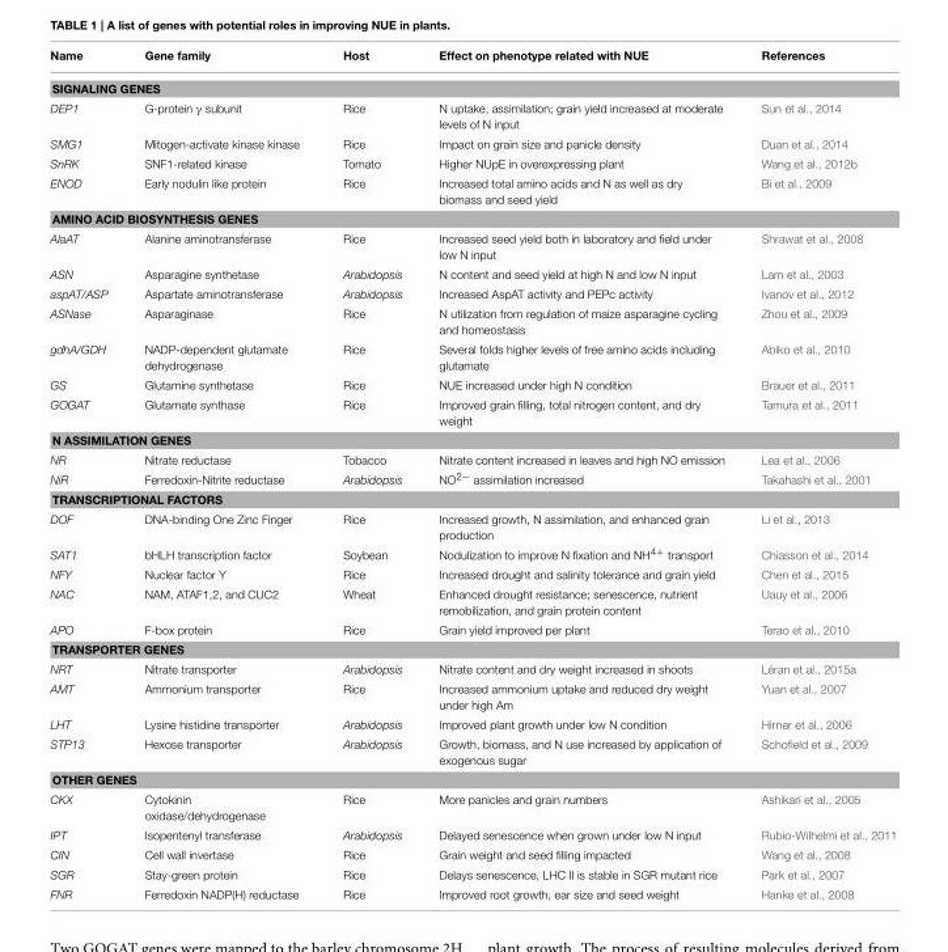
<table><thead><tr><td>Name</td><td>Gene family</td><td>Host</td><td>Effect on phenotype related with NUE</td><td>References</td></tr></thead><tbody><tr><td colspan="5">SIGNALING GENES</td></tr><tr><td>DEP1</td><td>G-protein γ subunit</td><td>Rice</td><td>N uptake, assimilation; grain yield increased at moderate levels of N input</td><td>Sun et al., 2014</td></tr><tr><td>SMG1</td><td>Mitogen-activate kinase kinase</td><td>Rice</td><td>Impact on grain size and panicle density</td><td>Duan et al., 2014</td></tr><tr><td>SnRK</td><td>SNF1-related kinase</td><td>Tomato</td><td>Higher NUpE in overexpressing plant</td><td>Wang et al., 2012b</td></tr><tr><td>ENOD</td><td>Early nodulin like protein</td><td>Rice</td><td>Increased total amino acids and N as well as dry biomass and seed yield</td><td>Bi et al., 2009</td></tr><tr><td colspan="5">AMINO ACID BIOSYNTHESIS GENES</td></tr><tr><td>AlaAT</td><td>Alanine aminotransferase</td><td>Rice</td><td>Increased seed yield both in laboratory and field under low N input</td><td>Shrawat et al., 2008</td></tr><tr><td>ASN</td><td>Asparagine synthetase</td><td>Arabidopsis</td><td>N content and seed yield at high N and low N input</td><td>Lam et al., 2003</td></tr><tr><td>aspAT/ASP</td><td>Aspartate aminotransferase</td><td>Arabidopsis</td><td>Increased AspAT activity and PEPc activity</td><td>Ivanov et al., 2012</td></tr><tr><td>ASNase</td><td>Asparaginase</td><td>Rice</td><td>N utilization from regulation of maize asparagine cycling and homeostasis</td><td>Zhou et al., 2009</td></tr><tr><td>gdhA/GDH</td><td>NADP-dependent glutamate dehydrogenase</td><td>Rice</td><td>Several folds higher levels of free amino acids including glutamate</td><td>Abiko et al., 2010</td></tr><tr><td>GS</td><td>Glutamine synthetase</td><td>Rice</td><td>NUE increased under high N condition</td><td>Brauer et al., 2011</td></tr><tr><td>GOGAT</td><td>Glutamate synthase</td><td>Rice</td><td>Improved grain filling, total nitrogen content, and dry weight</td><td>Tamura et al., 2011</td></tr><tr><td colspan="5">N ASSIMILATION GENES</td></tr><tr><td>NR</td><td>Nitrate reductase</td><td>Tobacco</td><td>Nitrate content increased in leaves and high NO emission</td><td>Lea et al., 2006</td></tr><tr><td>NiR</td><td>Ferredoxin-Nitrite reductase</td><td>Arabidopsis</td><td>NO<sup>2−</sup> assimilation increased</td><td>Takahashi et al., 2001</td></tr><tr><td colspan="5">TRANSCRIPTIONAL FACTORS</td></tr><tr><td>DOF</td><td>DNA-binding One Zinc Finger</td><td>Rice</td><td>Increased growth, N assimilation, and enhanced grain production</td><td>Li et al., 2013</td></tr><tr><td>SAT1</td><td>bHLH transcription factor</td><td>Soybean</td><td>Nodulization to improve N fixation and NH<sup>4+</sup> transport</td><td>Chiasson et al., 2014</td></tr><tr><td>NFY</td><td>Nuclear factor Y</td><td>Rice</td><td>Increased drought and salinity tolerance and grain yield</td><td>Chen et al., 2015</td></tr><tr><td>NAC</td><td>NAM, ATAF1,2, and CUC2</td><td>Wheat</td><td>Enhanced drought resistance; senescence, nutrient remobilization, and grain protein content</td><td>Uauy et al., 2006</td></tr><tr><td>APO</td><td>F-box protein</td><td>Rice</td><td>Grain yield improved per plant</td><td>Terao et al., 2010</td></tr><tr><td colspan="5">TRANSPORTER GENES</td></tr><tr><td>NRT</td><td>Nitrate transporter</td><td>Arabidopsis</td><td>Nitrate content and dry weight increased in shoots</td><td>Léran et al., 2015a</td></tr><tr><td>AMT</td><td>Ammonium transporter</td><td>Rice</td><td>Increased ammonium uptake and reduced dry weight under high Am</td><td>Yuan et al., 2007</td></tr><tr><td>LHT</td><td>Lysine histidine transporter</td><td>Arabidopsis</td><td>Improved plant growth under low N condition</td><td>Hirner et al., 2006</td></tr><tr><td>STP13</td><td>Hexose transporter</td><td>Arabidopsis</td><td>Growth, biomass, and N use increased by application of exogenous sugar</td><td>Schofield et al., 2009</td></tr><tr><td colspan="5">OTHER GENES</td></tr><tr><td>CKX</td><td>Cytokinin oxidase/dehydrogenase</td><td>Rice</td><td>More panicles and grain numbers</td><td>Ashikari et al., 2005</td></tr><tr><td>IPT</td><td>Isopentenyl transferase</td><td>Arabidopsis</td><td>Delayed senescence when grown under low N input</td><td>Rubio-Wilhelmi et al., 2011</td></tr><tr><td>CIN</td><td>Cell wall invertase</td><td>Rice</td><td>Grain weight and seed filling impacted</td><td>Wang et al., 2008</td></tr><tr><td>SGR</td><td>Stay-green protein</td><td>Rice</td><td>Delays senescence, LHC II is stable in SGR mutant rice</td><td>Park et al., 2007</td></tr><tr><td>FNR</td><td>Ferredoxin NADP(H) reductase</td><td>Rice</td><td>Improved root growth, ear size and seed weight</td><td>Hanke et al., 2008</td></tr></tbody></table>